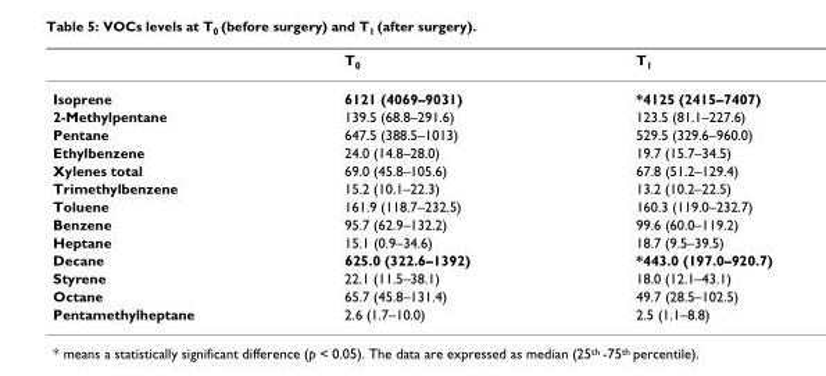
<table><thead><tr><td></td><td>T<sub>0</sub></td><td>T<sub>1</sub></td></tr></thead><tbody><tr><td>Isoprene</td><td>6121 (4069–9031)</td><td>*4125 (2415–7407)</td></tr><tr><td>2-Methylpentane</td><td>139.5 (68.8–291.6)</td><td>123.5 (81.1–227.6)</td></tr><tr><td>Pentane</td><td>647.5 (388.5–1013)</td><td>529.5 (329.6–960.0)</td></tr><tr><td>Ethylbenzene</td><td>24.0 (14.8–28.0)</td><td>19.7 (15.7–34.5)</td></tr><tr><td>Xylenes total</td><td>69.0 (45.8–105.6)</td><td>67.8 (51.2–129.4)</td></tr><tr><td>Trimethylbenzene</td><td>15.2 (10.1–22.3)</td><td>13.2 (10.2–22.5)</td></tr><tr><td>Toluene</td><td>161.9 (118.7–232.5)</td><td>160.3 (119.0–232.7)</td></tr><tr><td>Benzene</td><td>95.7 (62.9–132.2)</td><td>99.6 (60.0–119.2)</td></tr><tr><td>Heptane</td><td>15.1 (0.9–34.6)</td><td>18.7 (9.5–39.5)</td></tr><tr><td>Decane</td><td>625.0 (322.6–1392)</td><td>*443.0 (197.0–920.7)</td></tr><tr><td>Styrene</td><td>22.1 (11.5–38.1)</td><td>18.0 (12.1–43.1)</td></tr><tr><td>Octane</td><td>65.7 (45.8–131.4)</td><td>49.7 (28.5–102.5)</td></tr><tr><td>Pentamethylheptane</td><td>2.6 (1.7–10.0)</td><td>2.5 (1.1–8.8)</td></tr></tbody></table>